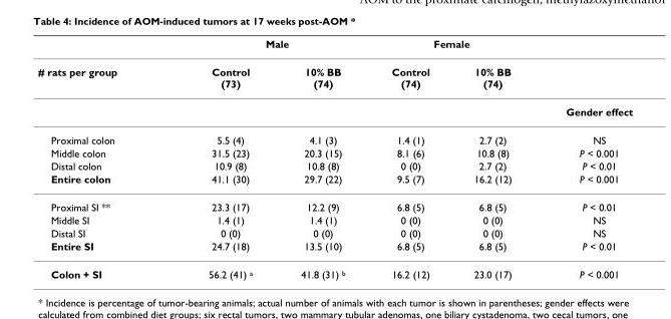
<table><thead><tr><td rowspan="2"># rats per group</td><td colspan="2">Male</td><td colspan="2">Female</td><td rowspan="2"></td></tr><tr><td>Control (73)</td><td>10% BB (74)</td><td>Control (74)</td><td>10% BB (74)</td></tr></thead><tbody><tr><td></td><td></td><td></td><td></td><td></td><td>Gender effect</td></tr><tr><td>Proximal colon</td><td>5.5 (4)</td><td>4.1 (3)</td><td>1.4 (1)</td><td>2.7 (2)</td><td>NS</td></tr><tr><td>Middle colon</td><td>31.5 (23)</td><td>20.3 (15)</td><td>8.1 (6)</td><td>10.8 (8)</td><td>P &lt; 0.001</td></tr><tr><td>Distal colon</td><td>10.9 (8)</td><td>10.8 (8)</td><td>0 (0)</td><td>2.7 (2)</td><td>P &lt; 0.01</td></tr><tr><td>Entire colon</td><td>41.1 (30)</td><td>29.7 (22)</td><td>9.5 (7)</td><td>16.2 (12)</td><td>P &lt; 0.001</td></tr><tr><td>Proximal SI **</td><td>23.3 (17)</td><td>12.2 (9)</td><td>6.8 (5)</td><td>6.8 (5)</td><td>P &lt; 0.01</td></tr><tr><td>Middle SI</td><td>1.4 (1)</td><td>1.4 (1)</td><td>0 (0)</td><td>0 (0)</td><td>NS</td></tr><tr><td>Distal SI</td><td>0 (0)</td><td>0 (0)</td><td>0 (0)</td><td>0 (0)</td><td>NS</td></tr><tr><td>Entire SI</td><td>24.7 (18)</td><td>13.5 (10)</td><td>6.8 (5)</td><td>6.8 (5)</td><td>P &lt; 0.01</td></tr><tr><td>Colon + SI</td><td>56.2 (41) <sup>a</sup></td><td>41.8 (31) <sup>b</sup></td><td>16.2 (12)</td><td>23.0 (17)</td><td>P &lt; 0.001</td></tr></tbody></table>